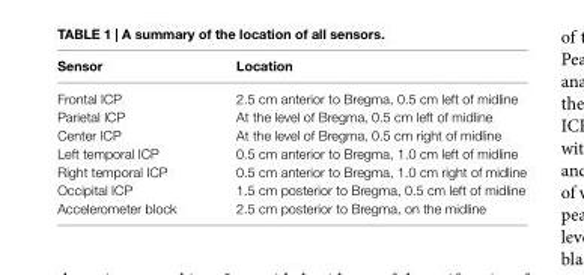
<table><thead><tr><td>sensor</td><td>location</td></tr></thead><tbody><tr><td>Frontal ICP</td><td>2.5 cm anterior to Bregma, 0.5 cm left of midline</td></tr><tr><td>Parietal ICP</td><td>At the level of Bregma, 0.5 cm left of midline</td></tr><tr><td>Center ICP</td><td>At the level of Bregma, 0.5 cm right of midline</td></tr><tr><td>Left temporal ICP</td><td>0.5 cm anterior to Bregma, 1.0 cm left of midline</td></tr><tr><td>Right temporal ICP</td><td>0.5 cm anterior to Bregma, 1.0 cm right of midline</td></tr><tr><td>Occipital ICP</td><td>1.5 cm posterior to Bregma, 0.5 cm left of midline</td></tr><tr><td>Accelerometer block</td><td>2.5 cm posterior to Bregma, on the midline</td></tr></tbody></table>